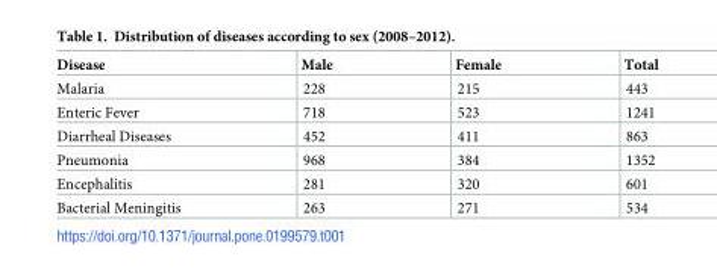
<table><thead><tr><td>Disease</td><td>Male</td><td>Female</td><td>Total</td></tr></thead><tbody><tr><td>Malaria</td><td>228</td><td>215</td><td>443</td></tr><tr><td>Enteric Fever</td><td>718</td><td>523</td><td>1241</td></tr><tr><td>Diarrheal Diseases</td><td>452</td><td>411</td><td>863</td></tr><tr><td>Pneumonia</td><td>968</td><td>384</td><td>1352</td></tr><tr><td>Encephalitis</td><td>281</td><td>320</td><td>601</td></tr><tr><td>Bacterial Meningitis</td><td>263</td><td>271</td><td>534</td></tr></tbody></table>